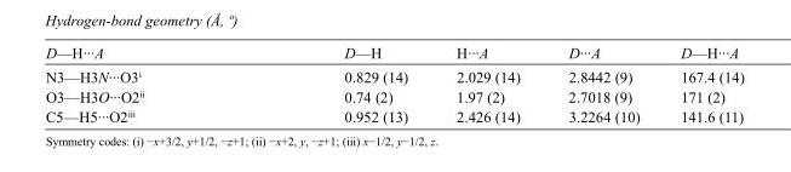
<table><tbody><tr><td>D—H···A</td><td>D—H</td><td>H···A</td><td>D···A</td><td>D—H···A</td></tr><tr><td>N3—H3N···O3<sup>i</sup></td><td>0.829 (14)</td><td>2.029 (14)</td><td>2.8442 (9)</td><td>167.4 (14)</td></tr><tr><td>O3—H3O···O2<sup>ii</sup></td><td>0.74 (2)</td><td>1.97 (2)</td><td>2.7018 (9)</td><td>171 (2)</td></tr><tr><td>C5—H5···O2<sup>iii</sup></td><td>0.952 (13)</td><td>2.426 (14)</td><td>3.2264 (10)</td><td>141.6 (11)</td></tr></tbody></table>